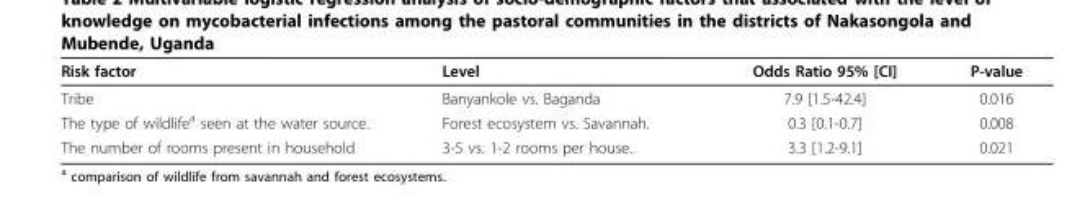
<table><thead><tr><td>Risk factor</td><td>Level</td><td>Odds Ratio 95% [CI]</td><td>P-value</td></tr></thead><tbody><tr><td>Tribe</td><td>Banyankole vs. Baganda</td><td>7.9 [1.5-42.4]</td><td>0.016</td></tr><tr><td>The type of wildlife<sup>a</sup> seen at the water source.</td><td>Forest ecosystem vs. Savannah.</td><td>0.3 [0.1-0.7]</td><td>0.008</td></tr><tr><td>The number of rooms present in household</td><td>3-5 vs. 1-2 rooms per house.</td><td>3.3 [1.2-9.1]</td><td>0.021</td></tr></tbody></table>